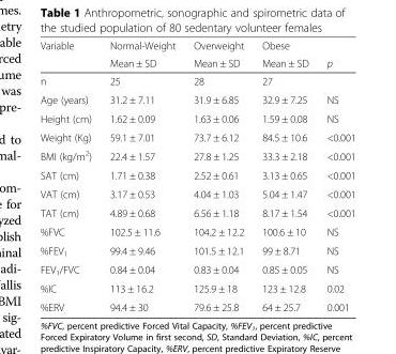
<table><thead><tr><td rowspan="2">Variable</td><td rowspan="2">Normal-Weight Mean ± SD</td><td rowspan="2">Overweight Mean ± SD</td><td rowspan="2">Obese Mean ± SD</td><td rowspan="2">p</td></tr><tr></tr></thead><tbody><tr><td>n</td><td>25</td><td>28</td><td>27</td><td></td></tr><tr><td>Age (years)</td><td>31.2 ± 7.11</td><td>31.9 ± 6.85</td><td>32.9 ± 7.25</td><td>NS</td></tr><tr><td>Height (cm)</td><td>1.62 ± 0.09</td><td>1.63 ± 0.06</td><td>1.59 ± 0.08</td><td>NS</td></tr><tr><td>Weight (Kg)</td><td>59.1 ± 7.01</td><td>73.7 ± 6.12</td><td>84.5 ± 10.6</td><td>&lt;0.001</td></tr><tr><td>BMI (kg/m<sup>2</sup>)</td><td>22.4 ± 1.57</td><td>27.8 ± 1.25</td><td>33.3 ± 2.18</td><td>&lt;0.001</td></tr><tr><td>SAT (cm)</td><td>1.71 ± 0.38</td><td>2.52 ± 0.61</td><td>3.13 ± 0.65</td><td>&lt;0.001</td></tr><tr><td>VAT (cm)</td><td>3.17 ± 0.53</td><td>4.04 ± 1.03</td><td>5.04 ± 1.47</td><td>&lt;0.001</td></tr><tr><td>TAT (cm)</td><td>4.89 ± 0.68</td><td>6.56 ± 1.18</td><td>8.17 ± 1.54</td><td>&lt;0.001</td></tr><tr><td>%FVC</td><td>102.5 ± 11.6</td><td>104.2 ± 12.2</td><td>100.6 ± 10</td><td>NS</td></tr><tr><td>%FEV<sub>1</sub></td><td>99.4 ± 9.46</td><td>101.5 ± 12.1</td><td>99 ± 8.71</td><td>NS</td></tr><tr><td>FEV<sub>1</sub>/FVC</td><td>0.84 ± 0.04</td><td>0.83 ± 0.04</td><td>0.85 ± 0.05</td><td>NS</td></tr><tr><td>%IC</td><td>113 ± 16.2</td><td>125.9 ± 18</td><td>123 ± 12.8</td><td>0.02</td></tr><tr><td>%ERV</td><td>94.4 ± 30</td><td>79.6 ± 25.8</td><td>64 ± 25.7</td><td>0.001</td></tr></tbody></table>